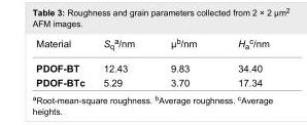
<table><tbody><tr><td>Material</td><td>S<sub>q</sub><sup>a</sup>/nm</td><td>μ<sup>b</sup>/nm</td><td>H<sub>a</sub><sup>c</sup>/nm</td></tr><tr><td>PDOF-BT</td><td>12.43</td><td>9.83</td><td>34.40</td></tr><tr><td>PDOF-BTc</td><td>5.29</td><td>3.70</td><td>17.34</td></tr></tbody></table>